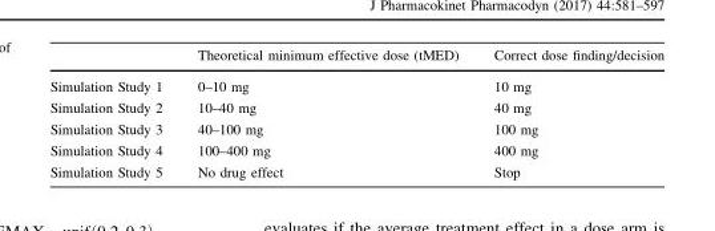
<table><thead><tr><td></td><td>Theoretical minimum effective dose (tMED)</td><td>Correct dose finding/decision</td></tr></thead><tbody><tr><td>Simulation Study 1</td><td>0–10 mg</td><td>10 mg</td></tr><tr><td>Simulation Study 2</td><td>10–40 mg</td><td>40 mg</td></tr><tr><td>Simulation Study 3</td><td>40–100 mg</td><td>100 mg</td></tr><tr><td>Simulation Study 4</td><td>100–400 mg</td><td>400 mg</td></tr><tr><td>Simulation Study 5</td><td>No drug effect</td><td>Stop</td></tr></tbody></table>